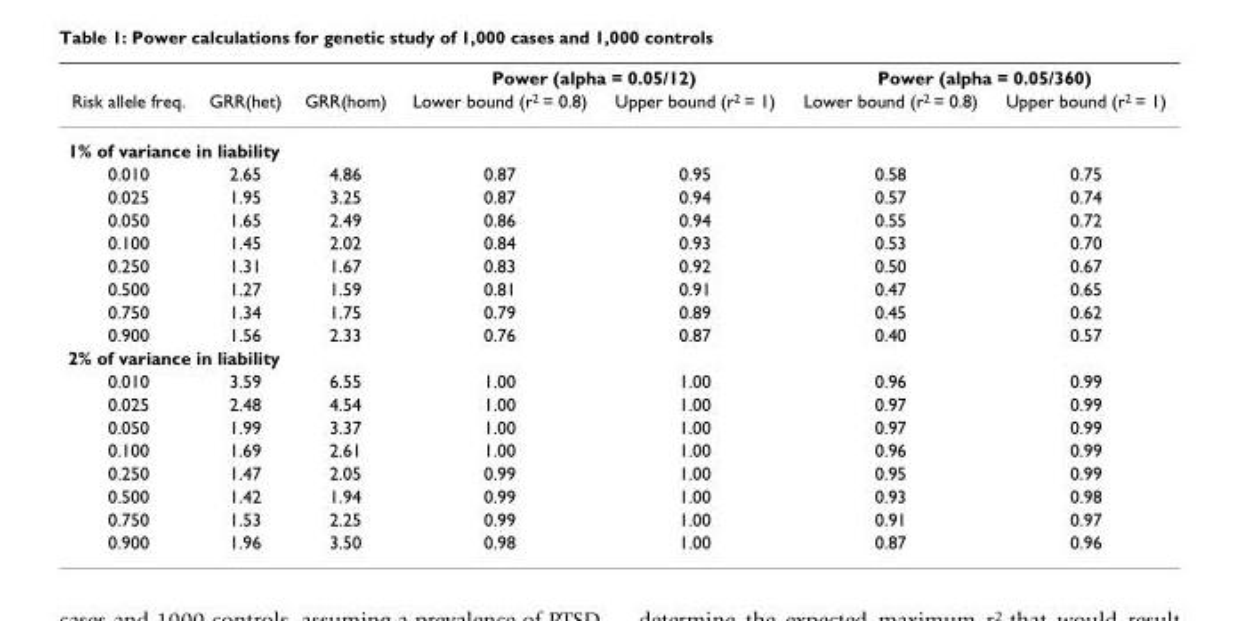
<table><thead><tr><td rowspan="2">Risk allele freq.</td><td rowspan="2">GRR(het)</td><td rowspan="2">GRR(hom)</td><td colspan="2">Power (alpha = 0.05/12)</td><td colspan="2">Power (alpha = 0.05/360)</td></tr><tr><td>Lower bound (r<sup>2</sup> = 0.8)</td><td>Upper bound (r<sup>2</sup> = 1)</td><td>Lower bound (r<sup>2</sup> = 0.8)</td><td>Upper bound (r<sup>2</sup> = 1)</td></tr></thead><tbody><tr><td colspan="7">1% of variance in liability</td></tr><tr><td>0.010</td><td>2.65</td><td>4.86</td><td>0.87</td><td>0.95</td><td>0.58</td><td>0.75</td></tr><tr><td>0.025</td><td>1.95</td><td>3.25</td><td>0.87</td><td>0.94</td><td>0.57</td><td>0.74</td></tr><tr><td>0.050</td><td>1.65</td><td>2.49</td><td>0.86</td><td>0.94</td><td>0.55</td><td>0.72</td></tr><tr><td>0.100</td><td>1.45</td><td>2.02</td><td>0.84</td><td>0.93</td><td>0.53</td><td>0.70</td></tr><tr><td>0.250</td><td>1.31</td><td>1.67</td><td>0.83</td><td>0.92</td><td>0.50</td><td>0.67</td></tr><tr><td>0.500</td><td>1.27</td><td>1.59</td><td>0.81</td><td>0.91</td><td>0.47</td><td>0.65</td></tr><tr><td>0.750</td><td>1.34</td><td>1.75</td><td>0.79</td><td>0.89</td><td>0.45</td><td>0.62</td></tr><tr><td>0.900</td><td>1.56</td><td>2.33</td><td>0.76</td><td>0.87</td><td>0.40</td><td>0.57</td></tr><tr><td colspan="7">2% of variance in liability</td></tr><tr><td>0.010</td><td>3.59</td><td>6.55</td><td>1.00</td><td>1.00</td><td>0.96</td><td>0.99</td></tr><tr><td>0.025</td><td>2.48</td><td>4.54</td><td>1.00</td><td>1.00</td><td>0.97</td><td>0.99</td></tr><tr><td>0.050</td><td>1.99</td><td>3.37</td><td>1.00</td><td>1.00</td><td>0.97</td><td>0.99</td></tr><tr><td>0.100</td><td>1.69</td><td>2.61</td><td>1.00</td><td>1.00</td><td>0.96</td><td>0.99</td></tr><tr><td>0.250</td><td>1.47</td><td>2.05</td><td>0.99</td><td>1.00</td><td>0.95</td><td>0.99</td></tr><tr><td>0.500</td><td>1.42</td><td>1.94</td><td>0.99</td><td>1.00</td><td>0.93</td><td>0.98</td></tr><tr><td>0.750</td><td>1.53</td><td>2.25</td><td>0.99</td><td>1.00</td><td>0.91</td><td>0.97</td></tr><tr><td>0.900</td><td>1.96</td><td>3.50</td><td>0.98</td><td>1.00</td><td>0.87</td><td>0.96</td></tr></tbody></table>